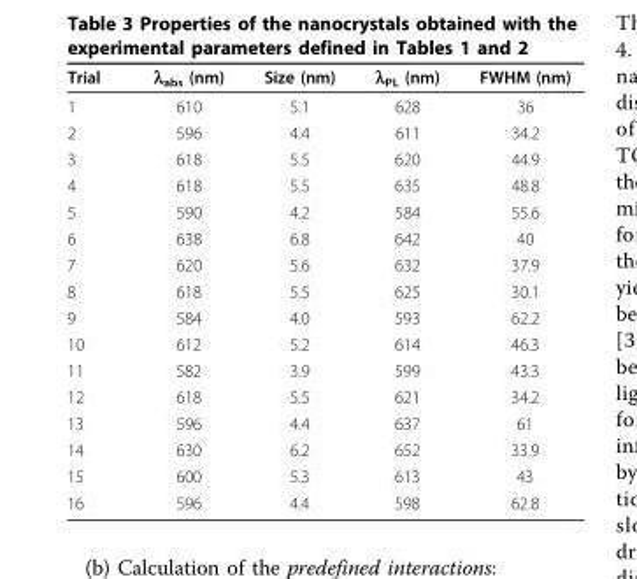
<table><thead><tr><td>Trial</td><td>λ<sub>abs</sub> (nm)</td><td>Size (nm)</td><td>λ<sub>PL</sub> (nm)</td><td>FWHM (nm)</td></tr></thead><tbody><tr><td>1</td><td>610</td><td>5.1</td><td>628</td><td>36</td></tr><tr><td>2</td><td>596</td><td>4.4</td><td>611</td><td>34.2</td></tr><tr><td>3</td><td>618</td><td>5.5</td><td>620</td><td>44.9</td></tr><tr><td>4</td><td>618</td><td>5.5</td><td>635</td><td>48.8</td></tr><tr><td>5</td><td>590</td><td>4.2</td><td>584</td><td>55.6</td></tr><tr><td>6</td><td>638</td><td>6.8</td><td>642</td><td>40</td></tr><tr><td>7</td><td>620</td><td>5.6</td><td>632</td><td>37.9</td></tr><tr><td>8</td><td>618</td><td>5.5</td><td>625</td><td>30.1</td></tr><tr><td>9</td><td>584</td><td>4.0</td><td>593</td><td>62.2</td></tr><tr><td>10</td><td>612</td><td>5.2</td><td>614</td><td>46.3</td></tr><tr><td>11</td><td>582</td><td>3.9</td><td>599</td><td>43.3</td></tr><tr><td>12</td><td>618</td><td>5.5</td><td>621</td><td>34.2</td></tr><tr><td>13</td><td>596</td><td>4.4</td><td>637</td><td>61</td></tr><tr><td>14</td><td>630</td><td>6.2</td><td>652</td><td>33.9</td></tr><tr><td>15</td><td>600</td><td>5.3</td><td>613</td><td>43</td></tr><tr><td>16</td><td>596</td><td>4.4</td><td>598</td><td>62.8</td></tr></tbody></table>